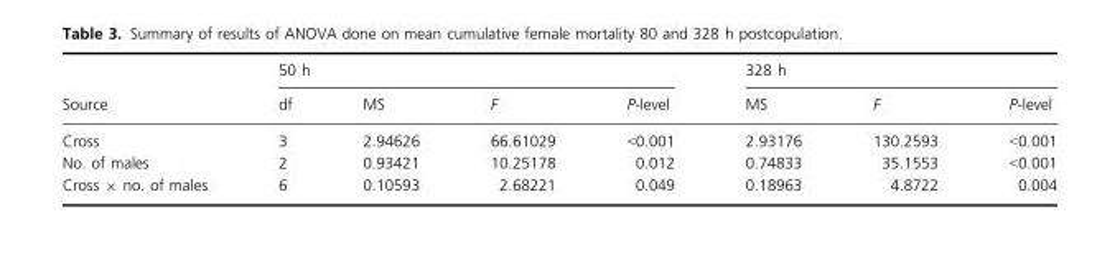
<table><thead><tr><td rowspan="2">Source</td><td colspan="4">50 h</td><td colspan="3">328 h</td></tr><tr><td>df</td><td>MS</td><td>F</td><td>P-level</td><td>MS</td><td>F</td><td>P-level</td></tr></thead><tbody><tr><td>Cross</td><td>3</td><td>2.94626</td><td>66.61029</td><td>&lt;0.001</td><td>2.93176</td><td>130.2593</td><td>&lt;0.001</td></tr><tr><td>No. of males</td><td>2</td><td>0.93421</td><td>10.25178</td><td>0.012</td><td>0.74833</td><td>35.1553</td><td>&lt;0.001</td></tr><tr><td>Cross × no. of males</td><td>6</td><td>0.10593</td><td>2.68221</td><td>0.049</td><td>0.18963</td><td>4.8722</td><td>0.004</td></tr></tbody></table>